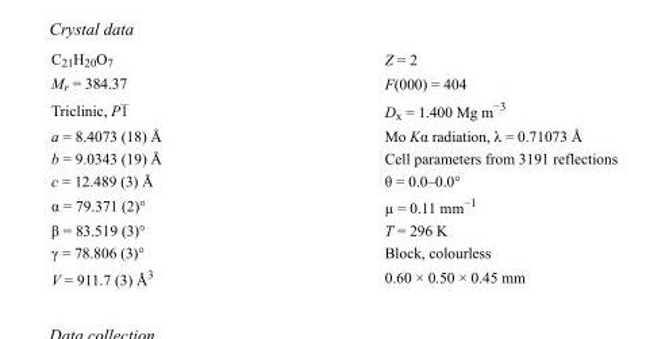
<table><tbody><tr><td>C<sub>21</sub>H<sub>20</sub>O<sub>7</sub></td><td>Z = 2</td></tr><tr><td>M<sub>r</sub> = 384.37</td><td>F(000) = 404</td></tr><tr><td>Triclinic, P1</td><td>D<sub>x</sub> = 1.400 Mg m<sup>−3</sup></td></tr><tr><td>a = 8.4073 (18) Å</td><td>Mo Kα radiation, λ = 0.71073 Å</td></tr><tr><td>b = 9.0343 (19) Å</td><td>Cell parameters from 3191 reflections</td></tr><tr><td>c = 12.489 (3) Å</td><td>θ = 0.0–0.0°</td></tr><tr><td>α = 79.371 (2)°</td><td>µ = 0.11 mm<sup>−1</sup></td></tr><tr><td>β = 83.519 (3)°</td><td>T = 296 K</td></tr><tr><td>γ = 78.806 (3)°</td><td>Block, colourless</td></tr><tr><td>V = 911.7 (3) Å<sup>3</sup></td><td>0.60 × 0.50 × 0.45 mm</td></tr></tbody></table>